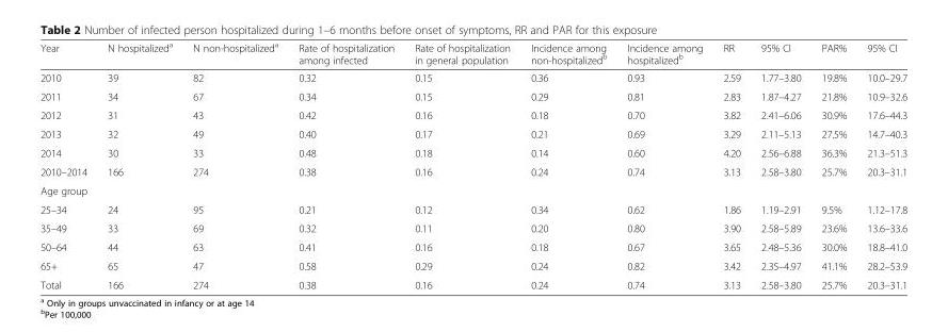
<table><thead><tr><td>Year</td><td>N hospitalized<sup>a</sup></td><td>N non-hospitalized<sup>a</sup></td><td>Rate of hospitalization among infected</td><td>Rate of hospitalization in general population</td><td>Incidence among non-hospitalized<sup>b</sup></td><td>Incidence among hospitalized<sup>b</sup></td><td>RR</td><td>95% CI</td><td>PAR%</td><td>95% CI</td></tr></thead><tbody><tr><td>2010</td><td>39</td><td>82</td><td>0.32</td><td>0.15</td><td>0.36</td><td>0.93</td><td>2.59</td><td>1.77–3.80</td><td>19.8%</td><td>10.0–29.7</td></tr><tr><td>2011</td><td>34</td><td>67</td><td>0.34</td><td>0.15</td><td>0.29</td><td>0.81</td><td>2.83</td><td>1.87–4.27</td><td>21.8%</td><td>10.9–32.6</td></tr><tr><td>2012</td><td>31</td><td>43</td><td>0.42</td><td>0.16</td><td>0.18</td><td>0.70</td><td>3.82</td><td>2.41–6.06</td><td>30.9%</td><td>17.6–44.3</td></tr><tr><td>2013</td><td>32</td><td>49</td><td>0.40</td><td>0.17</td><td>0.21</td><td>0.69</td><td>3.29</td><td>2.11–5.13</td><td>27.5%</td><td>14.7–40.3</td></tr><tr><td>2014</td><td>30</td><td>33</td><td>0.48</td><td>0.18</td><td>0.14</td><td>0.60</td><td>4.20</td><td>2.56–6.88</td><td>36.3%</td><td>21.3–51.3</td></tr><tr><td>2010–2014</td><td>166</td><td>274</td><td>0.38</td><td>0.16</td><td>0.24</td><td>0.74</td><td>3.13</td><td>2.58–3.80</td><td>25.7%</td><td>20.3–31.1</td></tr><tr><td colspan="11">Age group</td></tr><tr><td>25–34</td><td>24</td><td>95</td><td>0.21</td><td>0.12</td><td>0.34</td><td>0.62</td><td>1.86</td><td>1.19–2.91</td><td>9.5%</td><td>1.12–17.8</td></tr><tr><td>35–49</td><td>33</td><td>69</td><td>0.32</td><td>0.11</td><td>0.20</td><td>0.80</td><td>3.90</td><td>2.58–5.89</td><td>23.6%</td><td>13.6–33.6</td></tr><tr><td>50–64</td><td>44</td><td>63</td><td>0.41</td><td>0.16</td><td>0.18</td><td>0.67</td><td>3.65</td><td>2.48–5.36</td><td>30.0%</td><td>18.8–41.0</td></tr><tr><td>65+</td><td>65</td><td>47</td><td>0.58</td><td>0.29</td><td>0.24</td><td>0.82</td><td>3.42</td><td>2.35–4.97</td><td>41.1%</td><td>28.2–53.9</td></tr><tr><td>Total</td><td>166</td><td>274</td><td>0.38</td><td>0.16</td><td>0.24</td><td>0.74</td><td>3.13</td><td>2.58–3.80</td><td>25.7%</td><td>20.3–31.1</td></tr></tbody></table>